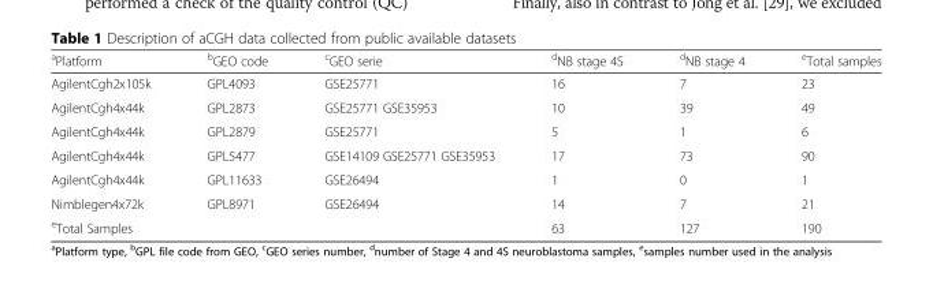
<table><thead><tr><td><sup>a</sup>Platform</td><td><sup>b</sup>GEO code</td><td><sup>c</sup>GEO serie</td><td><sup>d</sup>NB stage 4S</td><td><sup>d</sup>NB stage 4</td><td><sup>e</sup>Total samples</td></tr></thead><tbody><tr><td>AgilentCgh2x105k</td><td>GPL4093</td><td>GSE25771</td><td>16</td><td>7</td><td>23</td></tr><tr><td>AgilentCgh4x44k</td><td>GPL2873</td><td>GSE25771 GSE35953</td><td>10</td><td>39</td><td>49</td></tr><tr><td>AgilentCgh4x44k</td><td>GPL2879</td><td>GSE25771</td><td>5</td><td>1</td><td>6</td></tr><tr><td>AgilentCgh4x44k</td><td>GPL5477</td><td>GSE14109 GSE25771 GSE35953</td><td>17</td><td>73</td><td>90</td></tr><tr><td>AgilentCgh4x44k</td><td>GPL11633</td><td>GSE26494</td><td>1</td><td>0</td><td>1</td></tr><tr><td>Nimblegen4x72k</td><td>GPL8971</td><td>GSE26494</td><td>14</td><td>7</td><td>21</td></tr><tr><td><sup>e</sup>Total Samples</td><td></td><td></td><td>63</td><td>127</td><td>190</td></tr></tbody></table>